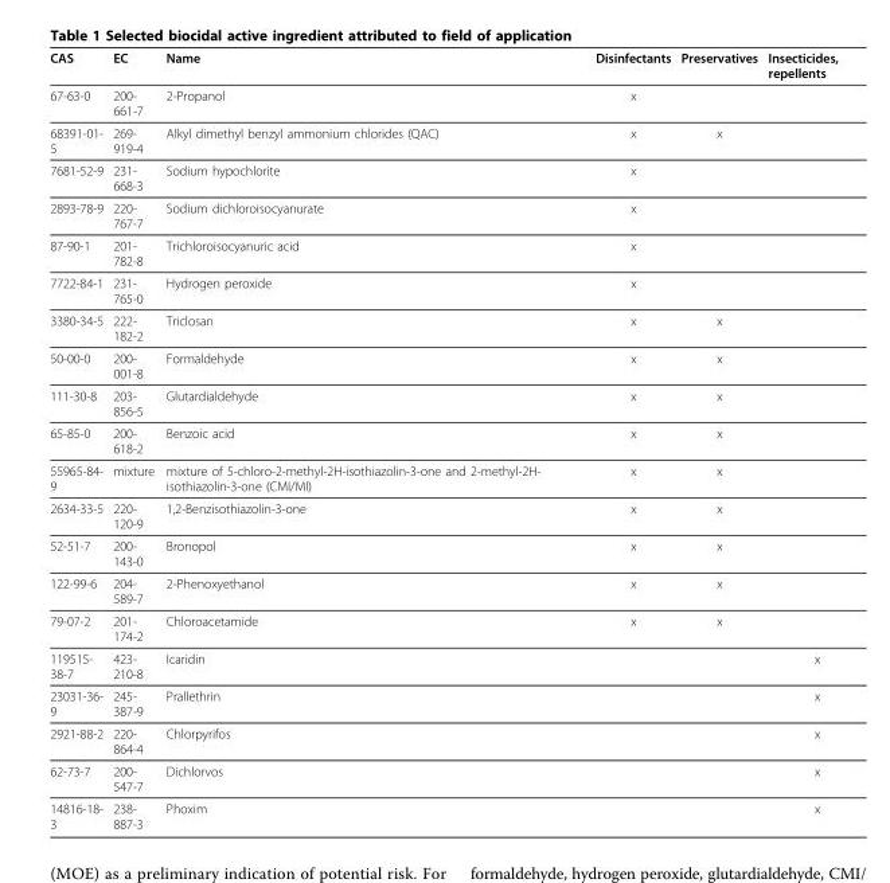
<table><thead><tr><td>CAS</td><td>EC</td><td>Name</td><td>Disinfectants</td><td>Preservatives</td><td>Insecticides, repellents</td></tr></thead><tbody><tr><td>67-63-0</td><td>200- 661-7</td><td>2-Propanol</td><td>x</td><td></td><td></td></tr><tr><td>68391-01- 5</td><td>269- 919-4</td><td>Alkyl dimethyl benzyl ammonium chlorides (QAC)</td><td>x</td><td>x</td><td></td></tr><tr><td>7681-52-9</td><td>231- 668-3</td><td>Sodium hypochlorite</td><td>x</td><td></td><td></td></tr><tr><td>2893-78-9</td><td>220- 767-7</td><td>Sodium dichloroisocyanurate</td><td>x</td><td></td><td></td></tr><tr><td>87-90-1</td><td>201- 782-8</td><td>Trichloroisocyanuric acid</td><td>x</td><td></td><td></td></tr><tr><td>7722-84-1</td><td>231- 765-0</td><td>Hydrogen peroxide</td><td>x</td><td></td><td></td></tr><tr><td>3380-34-5</td><td>222- 182-2</td><td>Triclosan</td><td>x</td><td>x</td><td></td></tr><tr><td>50-00-0</td><td>200- 001-8</td><td>Formaldehyde</td><td>x</td><td>x</td><td></td></tr><tr><td>111-30-8</td><td>203- 856-5</td><td>Glutardialdehyde</td><td>x</td><td>x</td><td></td></tr><tr><td>65-85-0</td><td>200- 618-2</td><td>Benzoic acid</td><td>x</td><td>x</td><td></td></tr><tr><td>55965-84- 9</td><td>mixture</td><td>mixture of 5-chloro-2-methyl-2H-isothiazolin-3-one and 2-methyl-2H- isothiazolin-3-one (CMI/MI)</td><td>x</td><td>x</td><td></td></tr><tr><td>2634-33-5</td><td>220- 120-9</td><td>1,2-Benzisothiazolin-3-one</td><td>x</td><td>x</td><td></td></tr><tr><td>52-51-7</td><td>200- 143-0</td><td>Bronopol</td><td>x</td><td>x</td><td></td></tr><tr><td>122-99-6</td><td>204- 589-7</td><td>2-Phenoxyethanol</td><td>x</td><td>x</td><td></td></tr><tr><td>79-07-2</td><td>201- 174-2</td><td>Chloroacetamide</td><td>x</td><td>x</td><td></td></tr><tr><td>119515- 38-7</td><td>423- 210-8</td><td>Icaridin</td><td></td><td></td><td>x</td></tr><tr><td>23031-36- 9</td><td>245- 387-9</td><td>Prallethrin</td><td></td><td></td><td>x</td></tr><tr><td>2921-88-2</td><td>220- 864-4</td><td>Chlorpyrifos</td><td></td><td></td><td>x</td></tr><tr><td>62-73-7</td><td>200- 547-7</td><td>Dichlorvos</td><td></td><td></td><td>x</td></tr><tr><td>14816-18- 3</td><td>238- 887-3</td><td>Phoxim</td><td></td><td></td><td>x</td></tr></tbody></table>